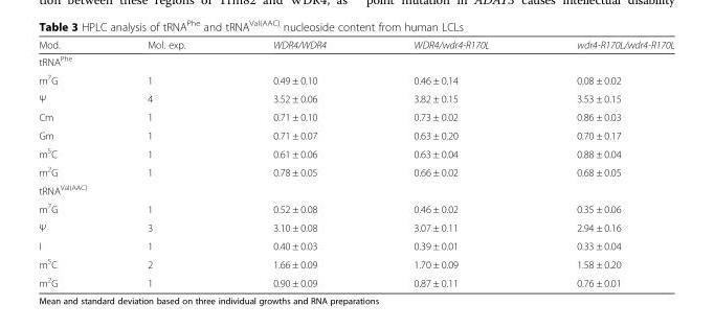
<table><thead><tr><td>Mod.</td><td>Mol. exp.</td><td>WDR4/WDR4</td><td>WDR4/wdr4-R170L</td><td>wdr4-R170L/wdr4-R170L</td></tr></thead><tbody><tr><td colspan="5">tRNA<sup>Phe</sup></td></tr><tr><td>m<sup>7</sup>G</td><td>1</td><td>0.49 ± 0.10</td><td>0.46 ± 0.14</td><td>0.08 ± 0.02</td></tr><tr><td>Ψ</td><td>4</td><td>3.52 ± 0.06</td><td>3.82 ± 0.15</td><td>3.53 ± 0.15</td></tr><tr><td>Cm</td><td>1</td><td>0.71 ± 0.10</td><td>0.73 ± 0.02</td><td>0.86 ± 0.03</td></tr><tr><td>Gm</td><td>1</td><td>0.71 ± 0.07</td><td>0.63 ± 0.20</td><td>0.70 ± 0.17</td></tr><tr><td>m<sup>5</sup>C</td><td>1</td><td>0.61 ± 0.06</td><td>0.63 ± 0.04</td><td>0.88 ± 0.04</td></tr><tr><td>m<sup>2</sup>G</td><td>1</td><td>0.78 ± 0.05</td><td>0.66 ± 0.02</td><td>0.68 ± 0.05</td></tr><tr><td colspan="5">tRNA<sup>Val(AAC)</sup></td></tr><tr><td>m<sup>7</sup>G</td><td>1</td><td>0.52 ± 0.08</td><td>0.46 ± 0.02</td><td>0.35 ± 0.06</td></tr><tr><td>Ψ</td><td>3</td><td>3.10 ± 0.08</td><td>3.07 ± 0.11</td><td>2.94 ± 0.16</td></tr><tr><td>I</td><td>1</td><td>0.40 ± 0.03</td><td>0.39 ± 0.01</td><td>0.33 ± 0.04</td></tr><tr><td>m<sup>5</sup>C</td><td>2</td><td>1.66 ± 0.09</td><td>1.70 ± 0.09</td><td>1.58 ± 0.20</td></tr><tr><td>m<sup>2</sup>G</td><td>1</td><td>0.90 ± 0.09</td><td>0.87 ± 0.11</td><td>0.76 ± 0.01</td></tr></tbody></table>